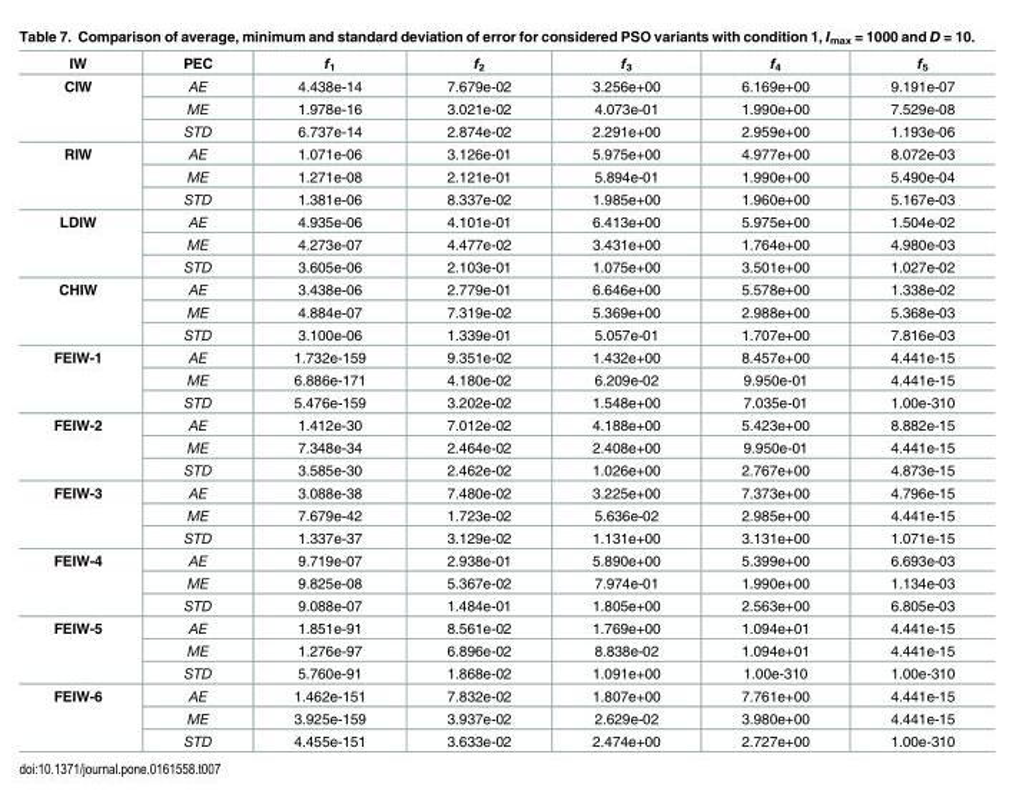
<table><thead><tr><td>IW</td><td>PEC</td><td>f<sub>1</sub></td><td>f<sub>2</sub></td><td>f<sub>3</sub></td><td>f<sub>4</sub></td><td>f<sub>5</sub></td></tr></thead><tbody><tr><td rowspan="3">CIW</td><td>AE</td><td>4.438e-14</td><td>7.679e-02</td><td>3.256e+00</td><td>6.169e+00</td><td>9.191e-07</td></tr><tr><td>ME</td><td>1.978e-16</td><td>3.021e-02</td><td>4.073e-01</td><td>1.990e+00</td><td>7.529e-08</td></tr><tr><td>STD</td><td>6.737e-14</td><td>2.874e-02</td><td>2.291e+00</td><td>2.959e+00</td><td>1.193e-06</td></tr><tr><td rowspan="3">RIW</td><td>AE</td><td>1.071e-06</td><td>3.126e-01</td><td>5.975e+00</td><td>4.977e+00</td><td>8.072e-03</td></tr><tr><td>ME</td><td>1.271e-08</td><td>2.121e-01</td><td>5.894e-01</td><td>1.990e+00</td><td>5.490e-04</td></tr><tr><td>STD</td><td>1.381e-06</td><td>8.337e-02</td><td>1.985e+00</td><td>1.960e+00</td><td>5.167e-03</td></tr><tr><td rowspan="3">LDIW</td><td>AE</td><td>4.935e-06</td><td>4.101e-01</td><td>6.413e+00</td><td>5.975e+00</td><td>1.504e-02</td></tr><tr><td>ME</td><td>4.273e-07</td><td>4.477e-02</td><td>3.431e+00</td><td>1.764e+00</td><td>4.980e-03</td></tr><tr><td>STD</td><td>3.605e-06</td><td>2.103e-01</td><td>1.075e+00</td><td>3.501e+00</td><td>1.027e-02</td></tr><tr><td rowspan="3">CHIW</td><td>AE</td><td>3.438e-06</td><td>2.779e-01</td><td>6.646e+00</td><td>5.578e+00</td><td>1.338e-02</td></tr><tr><td>ME</td><td>4.884e-07</td><td>7.319e-02</td><td>5.369e+00</td><td>2.988e+00</td><td>5.368e-03</td></tr><tr><td>STD</td><td>3.100e-06</td><td>1.339e-01</td><td>5.057e-01</td><td>1.707e+00</td><td>7.816e-03</td></tr><tr><td rowspan="3">FEIW-1</td><td>AE</td><td>1.732e-159</td><td>9.351e-02</td><td>1.432e+00</td><td>8.457e+00</td><td>4.441e-15</td></tr><tr><td>ME</td><td>6.886e-171</td><td>4.180e-02</td><td>6.209e-02</td><td>9.950e-01</td><td>4.441e-15</td></tr><tr><td>STD</td><td>5.476e-159</td><td>3.202e-02</td><td>1.548e+00</td><td>7.035e-01</td><td>1.00e-310</td></tr><tr><td rowspan="3">FEIW-2</td><td>AE</td><td>1.412e-30</td><td>7.012e-02</td><td>4.188e+00</td><td>5.423e+00</td><td>8.882e-15</td></tr><tr><td>ME</td><td>7.348e-34</td><td>2.464e-02</td><td>2.408e+00</td><td>9.950e-01</td><td>4.441e-15</td></tr><tr><td>STD</td><td>3.585e-30</td><td>2.462e-02</td><td>1.026e+00</td><td>2.767e+00</td><td>4.873e-15</td></tr><tr><td rowspan="3">FEIW-3</td><td>AE</td><td>3.088e-38</td><td>7.480e-02</td><td>3.225e+00</td><td>7.373e+00</td><td>4.796e-15</td></tr><tr><td>ME</td><td>7.679e-42</td><td>1.723e-02</td><td>5.636e-02</td><td>2.985e+00</td><td>4.441e-15</td></tr><tr><td>STD</td><td>1.337e-37</td><td>3.129e-02</td><td>1.131e+00</td><td>3.131e+00</td><td>1.071e-15</td></tr><tr><td rowspan="3">FEIW-4</td><td>AE</td><td>9.719e-07</td><td>2.938e-01</td><td>5.890e+00</td><td>5.399e+00</td><td>6.693e-03</td></tr><tr><td>ME</td><td>9.825e-08</td><td>5.367e-02</td><td>7.974e-01</td><td>1.990e+00</td><td>1.134e-03</td></tr><tr><td>STD</td><td>9.088e-07</td><td>1.484e-01</td><td>1.805e+00</td><td>2.563e+00</td><td>6.805e-03</td></tr><tr><td rowspan="3">FEIW-5</td><td>AE</td><td>1.851e-91</td><td>8.561e-02</td><td>1.769e+00</td><td>1.094e+01</td><td>4.441e-15</td></tr><tr><td>ME</td><td>1.276e-97</td><td>6.896e-02</td><td>8.838e-02</td><td>1.094e+01</td><td>4.441e-15</td></tr><tr><td>STD</td><td>5.760e-91</td><td>1.868e-02</td><td>1.091e+00</td><td>1.00e-310</td><td>1.00e-310</td></tr><tr><td rowspan="3">FEIW-6</td><td>AE</td><td>1.462e-151</td><td>7.832e-02</td><td>1.807e+00</td><td>7.761e+00</td><td>4.441e-15</td></tr><tr><td>ME</td><td>3.925e-159</td><td>3.937e-02</td><td>2.629e-02</td><td>3.980e+00</td><td>4.441e-15</td></tr><tr><td>STD</td><td>4.455e-151</td><td>3.633e-02</td><td>2.474e+00</td><td>2.727e+00</td><td>1.00e-310</td></tr></tbody></table>